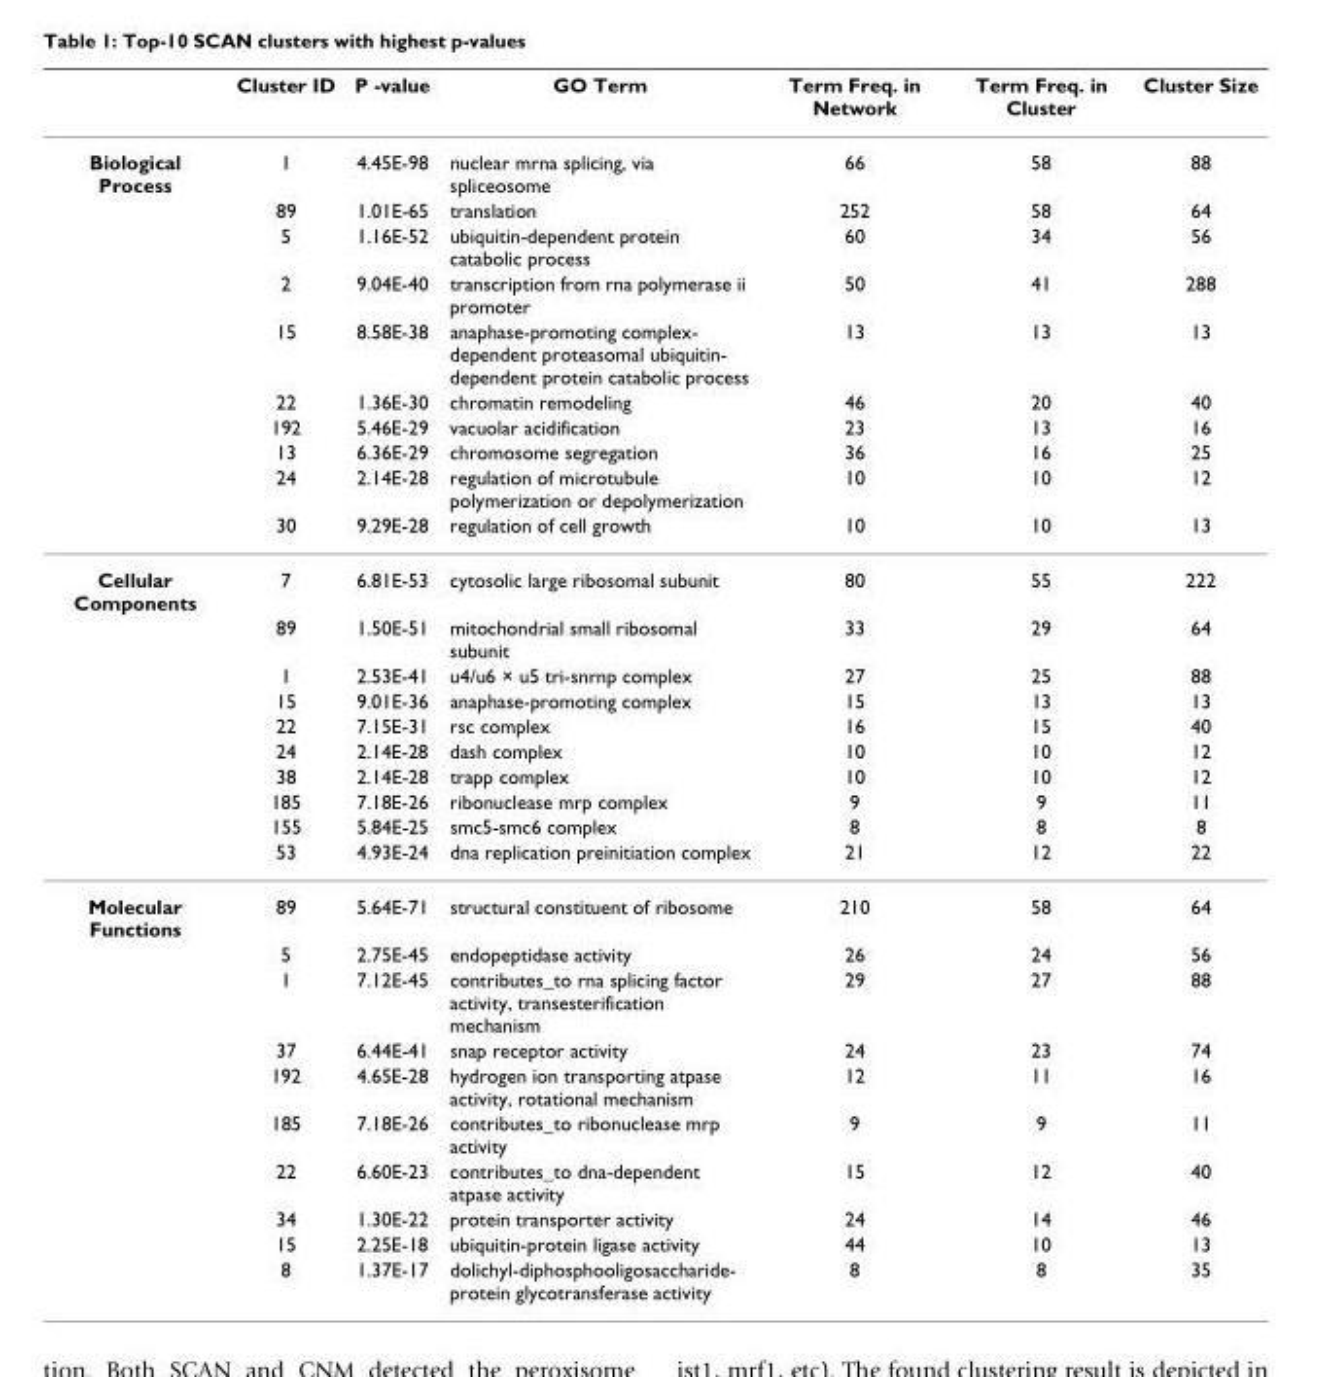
<table><thead><tr><td></td><td>Cluster ID</td><td>P -value</td><td>GO Term</td><td>Term Freq. in Network</td><td>Term Freq. in Cluster</td><td>Cluster Size</td></tr></thead><tbody><tr><td rowspan="10">Biological Process</td><td>1</td><td>4.45E-98</td><td>nuclear mrna splicing, via spliceosome</td><td>66</td><td>58</td><td>88</td></tr><tr><td>89</td><td>1.01E-65</td><td>translation</td><td>252</td><td>58</td><td>64</td></tr><tr><td>5</td><td>1.16E-52</td><td>ubiquitin-dependent protein catabolic process</td><td>60</td><td>34</td><td>56</td></tr><tr><td>2</td><td>9.04E-40</td><td>transcription from rna polymerase ii promoter</td><td>50</td><td>41</td><td>288</td></tr><tr><td>15</td><td>8.58E-38</td><td>anaphase-promoting complex- dependent proteasomal ubiquitin- dependent protein catabolic process</td><td>13</td><td>13</td><td>13</td></tr><tr><td>22</td><td>1.36E-30</td><td>chromatin remodeling</td><td>46</td><td>20</td><td>40</td></tr><tr><td>192</td><td>5.46E-29</td><td>vacuolar acidification</td><td>23</td><td>13</td><td>16</td></tr><tr><td>13</td><td>6.36E-29</td><td>chromosome segregation</td><td>36</td><td>16</td><td>25</td></tr><tr><td>24</td><td>2.14E-28</td><td>regulation of microtubule polymerization or depolymerization</td><td>10</td><td>10</td><td>12</td></tr><tr><td>30</td><td>9.29E-28</td><td>regulation of cell growth</td><td>10</td><td>10</td><td>13</td></tr><tr><td rowspan="10">Cellular Components</td><td>7</td><td>6.81E-53</td><td>cytosolic large ribosomal subunit</td><td>80</td><td>55</td><td>222</td></tr><tr><td>89</td><td>1.50E-51</td><td>mitochondrial small ribosomal subunit</td><td>33</td><td>29</td><td>64</td></tr><tr><td>1</td><td>2.53E-41</td><td>u4/u6 × u5 tri-snrnp complex</td><td>27</td><td>25</td><td>88</td></tr><tr><td>15</td><td>9.01E-36</td><td>anaphase-promoting complex</td><td>15</td><td>13</td><td>13</td></tr><tr><td>22</td><td>7.15E-31</td><td>rsc complex</td><td>16</td><td>15</td><td>40</td></tr><tr><td>24</td><td>2.14E-28</td><td>dash complex</td><td>10</td><td>10</td><td>12</td></tr><tr><td>38</td><td>2.14E-28</td><td>trapp complex</td><td>10</td><td>10</td><td>12</td></tr><tr><td>185</td><td>7.18E-26</td><td>ribonuclease mrp complex</td><td>9</td><td>9</td><td>11</td></tr><tr><td>155</td><td>5.84E-25</td><td>smc5-smc6 complex</td><td>8</td><td>8</td><td>8</td></tr><tr><td>53</td><td>4.93E-24</td><td>dna replication preinitiation complex</td><td>21</td><td>12</td><td>22</td></tr><tr><td rowspan="10">Molecular Functions</td><td>89</td><td>5.64E-71</td><td>structural constituent of ribosome</td><td>210</td><td>58</td><td>64</td></tr><tr><td>5</td><td>2.75E-45</td><td>endopeptidase activity</td><td>26</td><td>24</td><td>56</td></tr><tr><td>1</td><td>7.12E-45</td><td>contributes_to rna splicing factor activity, transesterification mechanism</td><td>29</td><td>27</td><td>88</td></tr><tr><td>37</td><td>6.44E-41</td><td>snap receptor activity</td><td>24</td><td>23</td><td>74</td></tr><tr><td>192</td><td>4.65E-28</td><td>hydrogen ion transporting atpase activity, rotational mechanism</td><td>12</td><td>11</td><td>16</td></tr><tr><td>185</td><td>7.18E-26</td><td>contributes_to ribonuclease mrp activity</td><td>9</td><td>9</td><td>11</td></tr><tr><td>22</td><td>6.60E-23</td><td>contributes_to dna-dependent atpase activity</td><td>15</td><td>12</td><td>40</td></tr><tr><td>34</td><td>1.30E-22</td><td>protein transporter activity</td><td>24</td><td>14</td><td>46</td></tr><tr><td>15</td><td>2.25E-18</td><td>ubiquitin-protein ligase activity</td><td>44</td><td>10</td><td>13</td></tr><tr><td>8</td><td>1.37E-17</td><td>dolichyl-diphosphooligosaccharide- protein glycotransferase activity</td><td>8</td><td>8</td><td>35</td></tr></tbody></table>